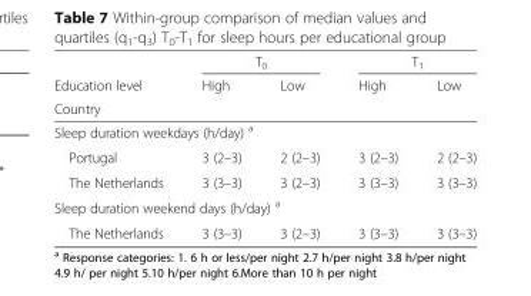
<table><thead><tr><td rowspan="3">Education level Country</td><td colspan="2">T<sub>0</sub></td><td colspan="2">T<sub>1</sub></td></tr><tr><td rowspan="2">High</td><td rowspan="2">Low</td><td rowspan="2">High</td><td rowspan="2">Low</td></tr><tr></tr></thead><tbody><tr><td colspan="5">Sleep duration weekdays (h/day) <sup>a</sup></td></tr><tr><td>Portugal</td><td>3 (2–3)</td><td>2 (2–3)</td><td>3 (2–3)</td><td>2 (2–3)</td></tr><tr><td>The Netherlands</td><td>3 (3–3)</td><td>3 (2–3)</td><td>3 (3–3)</td><td>3 (3–3)</td></tr><tr><td colspan="5">Sleep duration weekend days (h/day) <sup>a</sup></td></tr><tr><td>The Netherlands</td><td>3 (3–3)</td><td>3 (2–3)</td><td>3 (3–3)</td><td>3 (3–3)</td></tr></tbody></table>